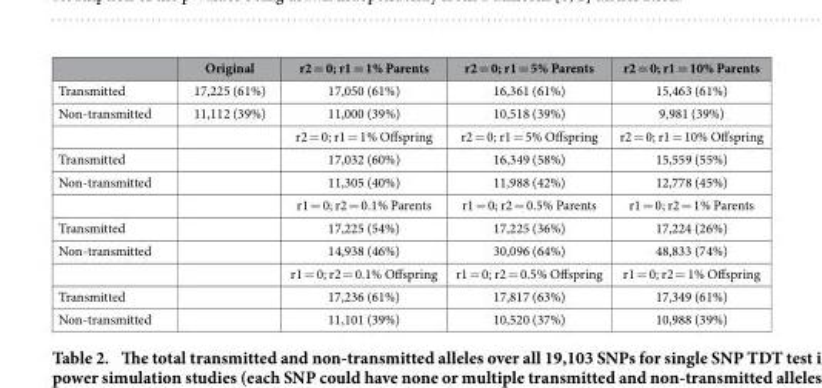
<table><thead><tr><td></td><td>Original</td><td>r2 = 0; r1 = 1% Parents</td><td>r2 = 0; r1 = 5% Parents</td><td>r2 = 0; r1 = 10% Parents</td></tr></thead><tbody><tr><td>Transmitted</td><td>17,225 (61%)</td><td>17,050 (61%)</td><td>16,361 (61%)</td><td>15,463 (61%)</td></tr><tr><td rowspan="2">Non-transmitted</td><td>11,112 (39%)</td><td>11,000 (39%)</td><td>10,518 (39%)</td><td>9,981 (39%)</td></tr><tr><td></td><td>r2 = 0; r1 = 1% Offspring</td><td>r2 = 0; r1 = 5% Offspring</td><td>r2 = 0; r1 = 10% Offspring</td></tr><tr><td>Transmitted</td><td></td><td>17,032 (60%)</td><td>16,349 (58%)</td><td>15,559 (55%)</td></tr><tr><td rowspan="2">Non-transmitted</td><td></td><td>11,305 (40%)</td><td>11,988 (42%)</td><td>12,778 (45%)</td></tr><tr><td></td><td>r1 = 0; r2 = 0.1% Parents</td><td>r1 = 0; r2 = 0.5% Parents</td><td>r1 = 0; r2 = 1% Parents</td></tr><tr><td>Transmitted</td><td></td><td>17,225 (54%)</td><td>17,225 (36%)</td><td>17,224 (26%)</td></tr><tr><td rowspan="2">Non-transmitted</td><td></td><td>14,938 (46%)</td><td>30,096 (64%)</td><td>48,833 (74%)</td></tr><tr><td></td><td>r1 = 0; r2 = 0.1% Offspring</td><td>r1 = 0; r2 = 0.5% Offspring</td><td>r1 = 0; r2 = 1% Offspring</td></tr><tr><td>Transmitted</td><td></td><td>17,236 (61%)</td><td>17,817 (63%)</td><td>17,349 (61%)</td></tr><tr><td>Non-transmitted</td><td></td><td>11,101 (39%)</td><td>10,520 (37%)</td><td>10,988 (39%)</td></tr></tbody></table>